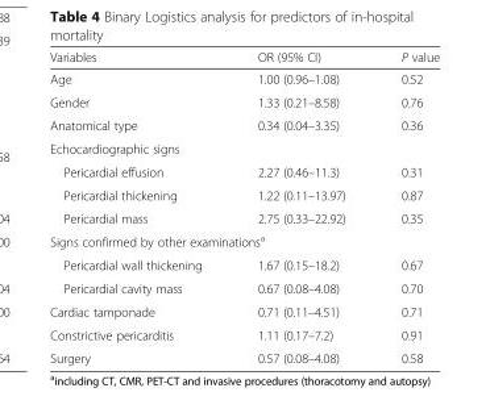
<table><thead><tr><td>Variables</td><td>OR (95% CI)</td><td>P value</td></tr></thead><tbody><tr><td>Age</td><td>1.00 (0.96–1.08)</td><td>0.52</td></tr><tr><td>Gender</td><td>1.33 (0.21–8.58)</td><td>0.76</td></tr><tr><td>Anatomical type</td><td>0.34 (0.04–3.35)</td><td>0.36</td></tr><tr><td colspan="3">Echocardiographic signs</td></tr><tr><td>Pericardial effusion</td><td>2.27 (0.46–11.3)</td><td>0.31</td></tr><tr><td>Pericardial thickening</td><td>1.22 (0.11–13.97)</td><td>0.87</td></tr><tr><td>Pericardial mass</td><td>2.75 (0.33–22.92)</td><td>0.35</td></tr><tr><td colspan="3">Signs confirmed by other examinations<sup>a</sup></td></tr><tr><td>Pericardial wall thickening</td><td>1.67 (0.15–18.2)</td><td>0.67</td></tr><tr><td>Pericardial cavity mass</td><td>0.67 (0.08–4.08)</td><td>0.70</td></tr><tr><td>Cardiac tamponade</td><td>0.71 (0.11–4.51)</td><td>0.71</td></tr><tr><td>Constrictive pericarditis</td><td>1.11 (0.17–7.2)</td><td>0.91</td></tr><tr><td>Surgery</td><td>0.57 (0.08–4.08)</td><td>0.58</td></tr></tbody></table>